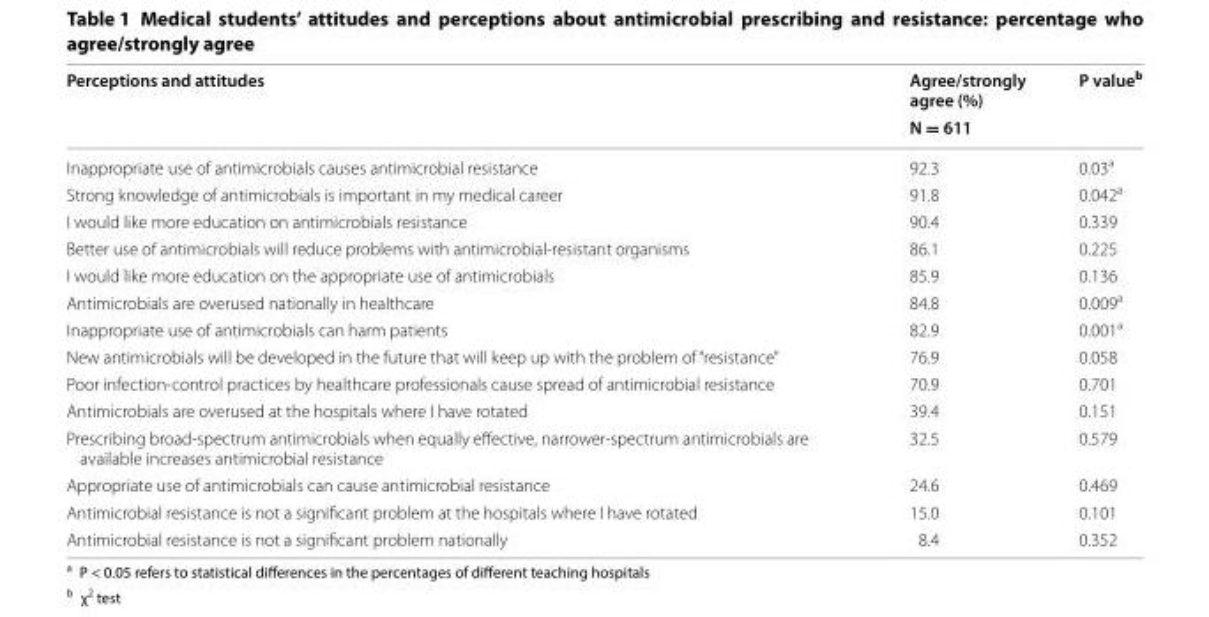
<table><thead><tr><td rowspan="2">Perceptions and attitudes</td><td rowspan="2">Agree/strongly agree (%) N = 611</td><td rowspan="2">P value<sup>b</sup></td></tr><tr></tr></thead><tbody><tr><td>Inappropriate use of antimicrobials causes antimicrobial resistance</td><td>92.3</td><td>0.03<sup>a</sup></td></tr><tr><td>Strong knowledge of antimicrobials is important in my medical career</td><td>91.8</td><td>0.042<sup>a</sup></td></tr><tr><td>I would like more education on antimicrobials resistance</td><td>90.4</td><td>0.339</td></tr><tr><td>Better use of antimicrobials will reduce problems with antimicrobial-resistant organisms</td><td>86.1</td><td>0.225</td></tr><tr><td>I would like more education on the appropriate use of antimicrobials</td><td>85.9</td><td>0.136</td></tr><tr><td>Antimicrobials are overused nationally in healthcare</td><td>84.8</td><td>0.009<sup>a</sup></td></tr><tr><td>Inappropriate use of antimicrobials can harm patients</td><td>82.9</td><td>0.001<sup>a</sup></td></tr><tr><td>New antimicrobials will be developed in the future that will keep up with the problem of “resistance”</td><td>76.9</td><td>0.058</td></tr><tr><td>Poor infection-control practices by healthcare professionals cause spread of antimicrobial resistance</td><td>70.9</td><td>0.701</td></tr><tr><td>Antimicrobials are overused at the hospitals where I have rotated</td><td>39.4</td><td>0.151</td></tr><tr><td>Prescribing broad-spectrum antimicrobials when equally effective, narrower-spectrum antimicrobials are available increases antimicrobial resistance</td><td>32.5</td><td>0.579</td></tr><tr><td>Appropriate use of antimicrobials can cause antimicrobial resistance</td><td>24.6</td><td>0.469</td></tr><tr><td>Antimicrobial resistance is not a significant problem at the hospitals where I have rotated</td><td>15.0</td><td>0.101</td></tr><tr><td>Antimicrobial resistance is not a significant problem nationally</td><td>8.4</td><td>0.352</td></tr></tbody></table>